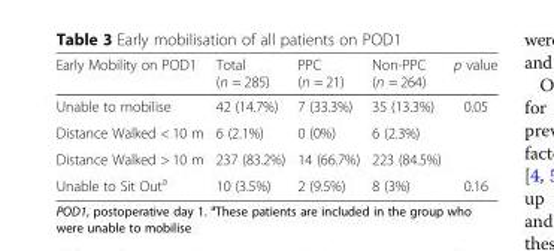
<table><thead><tr><td>Early Mobility on POD1</td><td>Total (n = 285)</td><td>PPC (n = 21)</td><td>Non-PPC (n = 264)</td><td>p value</td></tr></thead><tbody><tr><td>Unable to mobilise</td><td>42 (14.7%)</td><td>7 (33.3%)</td><td>35 (13.3%)</td><td rowspan="3">0.05</td></tr><tr><td>Distance Walked &lt; 10 m</td><td>6 (2.1%)</td><td>0 (0%)</td><td>6 (2.3%)</td></tr><tr><td>Distance Walked &gt; 10 m</td><td>237 (83.2%)</td><td>14 (66.7%)</td><td>223 (84.5%)</td></tr><tr><td>Unable to Sit Out<sup>a</sup></td><td>10 (3.5%)</td><td>2 (9.5%)</td><td>8 (3%)</td><td>0.16</td></tr></tbody></table>